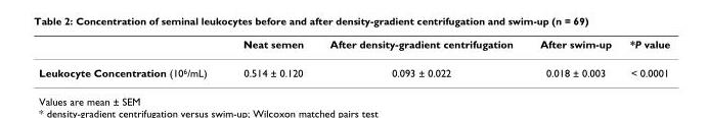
<table><thead><tr><td></td><td>Neat semen</td><td>After density-gradient centrifugation</td><td>After swim-up</td><td>*P value</td></tr></thead><tbody><tr><td>Leukocyte Concentration (10<sup>6</sup>/mL)</td><td>0.514 ± 0.120</td><td>0.093 ± 0.022</td><td>0.018 ± 0.003</td><td>&lt; 0.0001</td></tr></tbody></table>